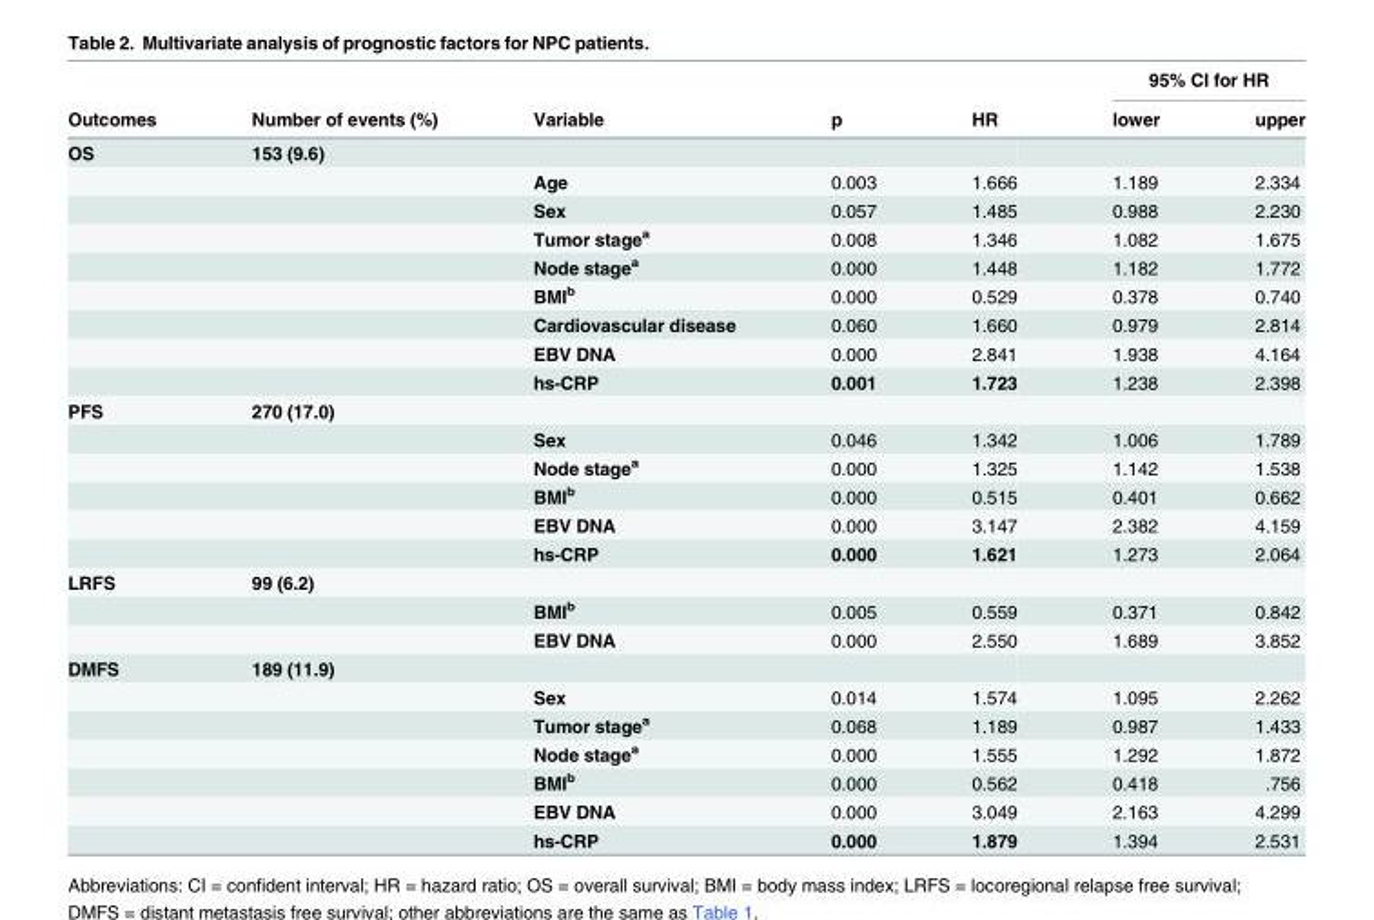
<table><thead><tr><td rowspan="2">Outcomes</td><td rowspan="2">Number of events (%)</td><td rowspan="2">Variable</td><td rowspan="2">p</td><td rowspan="2">HR</td><td colspan="2">95% CI for HR</td></tr><tr><td>lower</td><td>upper</td></tr></thead><tbody><tr><td rowspan="9">OS</td><td>153 (9.6)</td><td></td><td></td><td></td><td></td><td></td></tr><tr><td></td><td>Age</td><td>0.003</td><td>1.666</td><td>1.189</td><td>2.334</td></tr><tr><td></td><td>Sex</td><td>0.057</td><td>1.485</td><td>0.988</td><td>2.230</td></tr><tr><td></td><td>Tumor stage<sup>a</sup></td><td>0.008</td><td>1.346</td><td>1.082</td><td>1.675</td></tr><tr><td></td><td>Node stage<sup>a</sup></td><td>0.000</td><td>1.448</td><td>1.182</td><td>1.772</td></tr><tr><td></td><td>BMI<sup>b</sup></td><td>0.000</td><td>0.529</td><td>0.378</td><td>0.740</td></tr><tr><td></td><td>Cardiovascular disease</td><td>0.060</td><td>1.660</td><td>0.979</td><td>2.814</td></tr><tr><td></td><td>EBV DNA</td><td>0.000</td><td>2.841</td><td>1.938</td><td>4.164</td></tr><tr><td></td><td>hs-CRP</td><td>0.001</td><td>1.723</td><td>1.238</td><td>2.398</td></tr><tr><td rowspan="6">PFS</td><td>270 (17.0)</td><td></td><td></td><td></td><td></td><td></td></tr><tr><td></td><td>Sex</td><td>0.046</td><td>1.342</td><td>1.006</td><td>1.789</td></tr><tr><td></td><td>Node stage<sup>a</sup></td><td>0.000</td><td>1.325</td><td>1.142</td><td>1.538</td></tr><tr><td></td><td>BMI<sup>b</sup></td><td>0.000</td><td>0.515</td><td>0.401</td><td>0.662</td></tr><tr><td></td><td>EBV DNA</td><td>0.000</td><td>3.147</td><td>2.382</td><td>4.159</td></tr><tr><td></td><td>hs-CRP</td><td>0.000</td><td>1.621</td><td>1.273</td><td>2.064</td></tr><tr><td rowspan="3">LRFS</td><td>99 (6.2)</td><td></td><td></td><td></td><td></td><td></td></tr><tr><td></td><td>BMI<sup>b</sup></td><td>0.005</td><td>0.559</td><td>0.371</td><td>0.842</td></tr><tr><td></td><td>EBV DNA</td><td>0.000</td><td>2.550</td><td>1.689</td><td>3.852</td></tr><tr><td rowspan="7">DMFS</td><td>189 (11.9)</td><td></td><td></td><td></td><td></td><td></td></tr><tr><td></td><td>Sex</td><td>0.014</td><td>1.574</td><td>1.095</td><td>2.262</td></tr><tr><td></td><td>Tumor stage<sup>a</sup></td><td>0.068</td><td>1.189</td><td>0.987</td><td>1.433</td></tr><tr><td></td><td>Node stage<sup>a</sup></td><td>0.000</td><td>1.555</td><td>1.292</td><td>1.872</td></tr><tr><td></td><td>BMI<sup>b</sup></td><td>0.000</td><td>0.562</td><td>0.418</td><td>.756</td></tr><tr><td></td><td>EBV DNA</td><td>0.000</td><td>3.049</td><td>2.163</td><td>4.299</td></tr><tr><td></td><td>hs-CRP</td><td>0.000</td><td>1.879</td><td>1.394</td><td>2.531</td></tr></tbody></table>